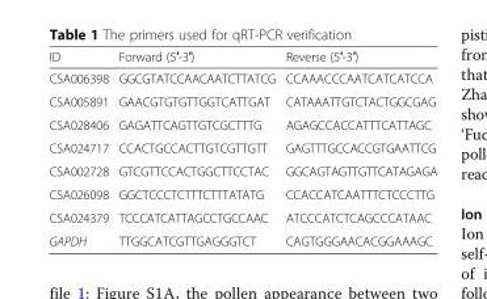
<table><thead><tr><td>ID</td><td>Forward (5′-3′)</td><td>Reverse (5′-3′)</td></tr></thead><tbody><tr><td>CSA006398</td><td>GGCGTATCCAACAATCTTATCG</td><td>CCAAACCCAATCATCATCCA</td></tr><tr><td>CSA005891</td><td>GAACGTGTGTTGGTCATTGAT</td><td>CATAAATTGTCTACTGGCGAG</td></tr><tr><td>CSA028406</td><td>GAGATTCAGTTGTCGCTTTG</td><td>AGAGCCACCATTTCATTAGC</td></tr><tr><td>CSA024717</td><td>CCACTGCCACTTGTCGTTGTT</td><td>GAGTTTGCCACCGTGAATTCG</td></tr><tr><td>CSA002728</td><td>GTCGTTCCACTGGCTTCCTAC</td><td>GGCAGTAGTTGTTCATAGAGA</td></tr><tr><td>CSA026098</td><td>GGCTCCCTCTTTCTTTATATG</td><td>CCACCATCAATTTCTCCCTTG</td></tr><tr><td>CSA024379</td><td>TCCCATCATTAGCCTGCCAAC</td><td>ATCCCATCTCAGCCCATAAC</td></tr><tr><td>GAPDH</td><td>TTGGCATCGTTGAGGGTCT</td><td>CAGTGGGAACACGGAAAGC</td></tr></tbody></table>